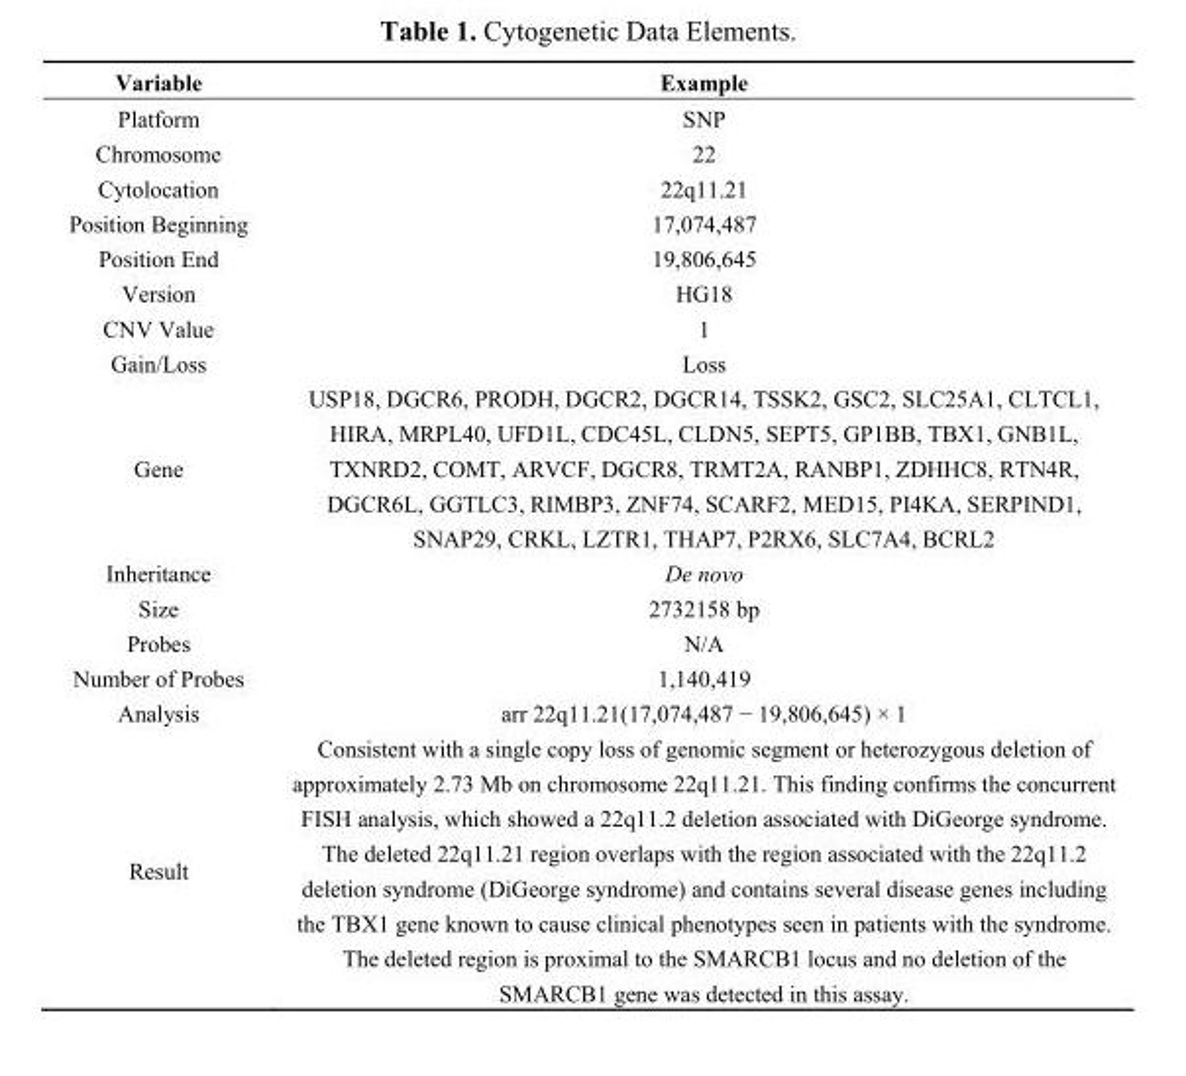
<table><thead><tr><td>Variable</td><td>Example</td></tr></thead><tbody><tr><td>Platform</td><td>SNP</td></tr><tr><td>Chromosome</td><td>22</td></tr><tr><td>Cytolocation</td><td>22q11.21</td></tr><tr><td>Position Beginning</td><td>17,074,487</td></tr><tr><td>Position End</td><td>19,806,645</td></tr><tr><td>Version</td><td>HG18</td></tr><tr><td>CNV Value</td><td>1</td></tr><tr><td>Gain/Loss</td><td>Loss</td></tr><tr><td>Gene</td><td>USP18, DGCR6, PRODH, DGCR2, DGCR14, TSSK2, GSC2, SLC25A1, CLTCL1, HIRA, MRPL40, UFD1L, CDC45L, CLDN5, SEPT5, GP1BB, TBX1, GNB1L, TXNRD2, COMT, ARVCF, DGCR8, TRMT2A, RANBP1, ZDHHC8, RTN4R, DGCR6L, GGTLC3, RIMBP3, ZNF74, SCARF2, MED15, PI4KA, SERPIND1, SNAP29, CRKL, LZTR1, THAP7, P2RX6, SLC7A4, BCRL2</td></tr><tr><td>Inheritance</td><td>De novo</td></tr><tr><td>Size</td><td>2732158 bp</td></tr><tr><td>Probes</td><td>N/A</td></tr><tr><td>Number of Probes</td><td>1,140,419</td></tr><tr><td>Analysis</td><td>arr 22q11.21(17,074,487 − 19,806,645) × 1</td></tr><tr><td>Result</td><td>Consistent with a single copy loss of genomic segment or heterozygous deletion of approximately 2.73 Mb on chromosome 22q11.21. This finding confirms the concurrent FISH analysis, which showed a 22q11.2 deletion associated with DiGeorge syndrome. The deleted 22q11.21 region overlaps with the region associated with the 22q11.2 deletion syndrome (DiGeorge syndrome) and contains several disease genes including the TBX1 gene known to cause clinical phenotypes seen in patients with the syndrome. The deleted region is proximal to the SMARCB1 locus and no deletion of the SMARCB1 gene was detected in this assay.</td></tr></tbody></table>